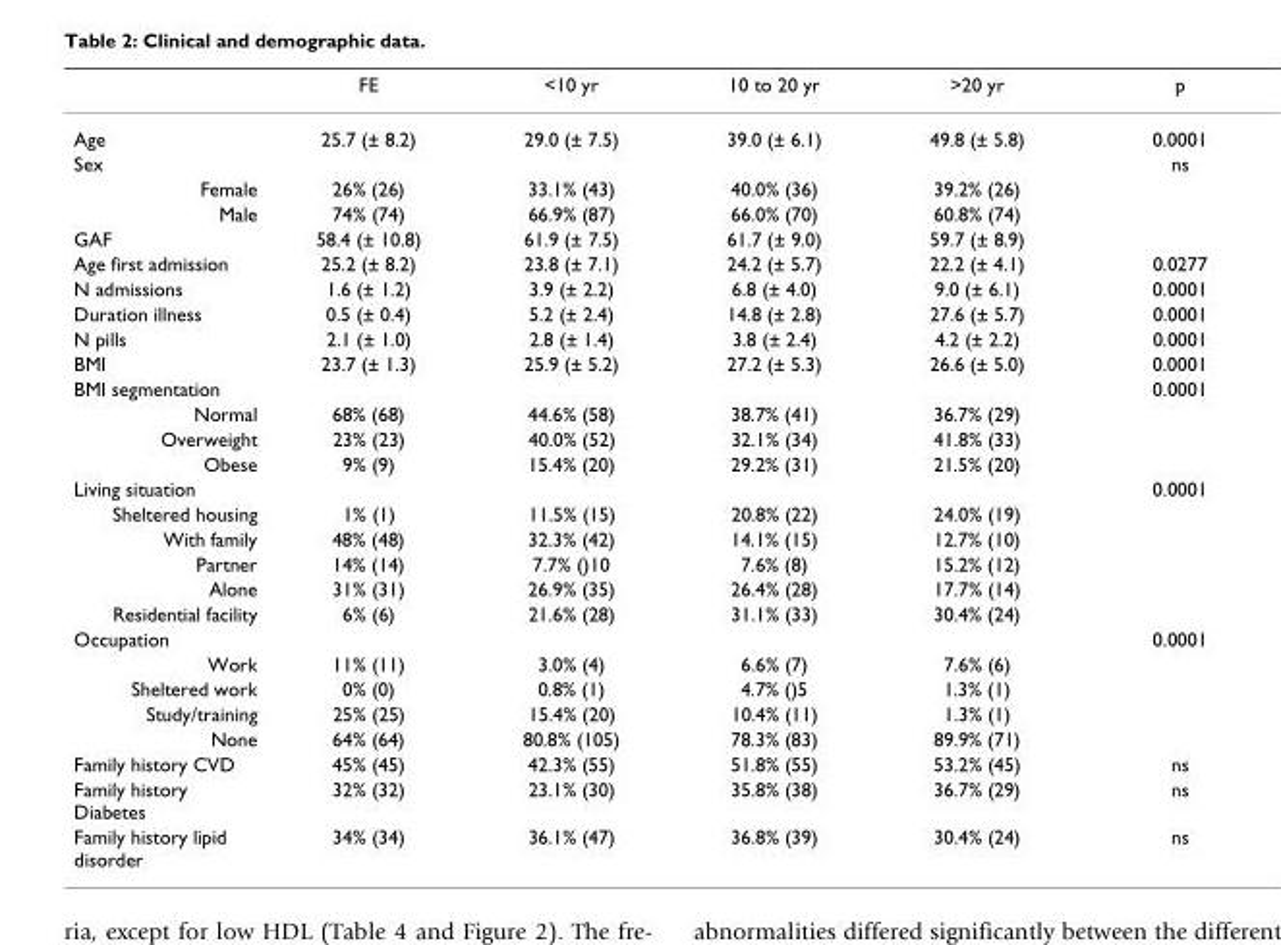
<table><thead><tr><td></td><td>FE</td><td>&lt;10 yr</td><td>10 to 20 yr</td><td>&gt;20 yr</td><td>p</td></tr></thead><tbody><tr><td>Age</td><td>25.7 (± 8.2)</td><td>29.0 (± 7.5)</td><td>39.0 (± 6.1)</td><td>49.8 (± 5.8)</td><td>0.0001</td></tr><tr><td>Sex</td><td></td><td></td><td></td><td></td><td>ns</td></tr><tr><td>Female</td><td>26% (26)</td><td>33.1% (43)</td><td>40.0% (36)</td><td>39.2% (26)</td><td></td></tr><tr><td>Male</td><td>74% (74)</td><td>66.9% (87)</td><td>66.0% (70)</td><td>60.8% (74)</td><td></td></tr><tr><td>GAF</td><td>58.4 (± 10.8)</td><td>61.9 (± 7.5)</td><td>61.7 (± 9.0)</td><td>59.7 (± 8.9)</td><td></td></tr><tr><td>Age first admission</td><td>25.2 (± 8.2)</td><td>23.8 (± 7.1)</td><td>24.2 (± 5.7)</td><td>22.2 (± 4.1)</td><td>0.0277</td></tr><tr><td>N admissions</td><td>1.6 (± 1.2)</td><td>3.9 (± 2.2)</td><td>6.8 (± 4.0)</td><td>9.0 (± 6.1)</td><td>0.0001</td></tr><tr><td>Duration illness</td><td>0.5 (± 0.4)</td><td>5.2 (± 2.4)</td><td>14.8 (± 2.8)</td><td>27.6 (± 5.7)</td><td>0.0001</td></tr><tr><td>N pills</td><td>2.1 (± 1.0)</td><td>2.8 (± 1.4)</td><td>3.8 (± 2.4)</td><td>4.2 (± 2.2)</td><td>0.0001</td></tr><tr><td>BMI</td><td>23.7 (± 1.3)</td><td>25.9 (± 5.2)</td><td>27.2 (± 5.3)</td><td>26.6 (± 5.0)</td><td>0.0001</td></tr><tr><td>BMI segmentation</td><td></td><td></td><td></td><td></td><td>0.0001</td></tr><tr><td>Normal</td><td>68% (68)</td><td>44.6% (58)</td><td>38.7% (41)</td><td>36.7% (29)</td><td></td></tr><tr><td>Overweight</td><td>23% (23)</td><td>40.0% (52)</td><td>32.1% (34)</td><td>41.8% (33)</td><td></td></tr><tr><td>Obese</td><td>9% (9)</td><td>15.4% (20)</td><td>29.2% (31)</td><td>21.5% (20)</td><td></td></tr><tr><td>Living situation</td><td></td><td></td><td></td><td></td><td>0.0001</td></tr><tr><td>Sheltered housing</td><td>1% (1)</td><td>11.5% (15)</td><td>20.8% (22)</td><td>24.0% (19)</td><td></td></tr><tr><td>With family</td><td>48% (48)</td><td>32.3% (42)</td><td>14.1% (15)</td><td>12.7% (10)</td><td></td></tr><tr><td>Partner</td><td>14% (14)</td><td>7.7% ()10</td><td>7.6% (8)</td><td>15.2% (12)</td><td></td></tr><tr><td>Alone</td><td>31% (31)</td><td>26.9% (35)</td><td>26.4% (28)</td><td>17.7% (14)</td><td></td></tr><tr><td>Residential facility</td><td>6% (6)</td><td>21.6% (28)</td><td>31.1% (33)</td><td>30.4% (24)</td><td></td></tr><tr><td>Occupation</td><td></td><td></td><td></td><td></td><td>0.0001</td></tr><tr><td>Work</td><td>11% (11)</td><td>3.0% (4)</td><td>6.6% (7)</td><td>7.6% (6)</td><td></td></tr><tr><td>Sheltered work</td><td>0% (0)</td><td>0.8% (1)</td><td>4.7% ()5</td><td>1.3% (1)</td><td></td></tr><tr><td>Study/training</td><td>25% (25)</td><td>15.4% (20)</td><td>10.4% (11)</td><td>1.3% (1)</td><td></td></tr><tr><td>None</td><td>64% (64)</td><td>80.8% (105)</td><td>78.3% (83)</td><td>89.9% (71)</td><td></td></tr><tr><td>Family history CVD</td><td>45% (45)</td><td>42.3% (55)</td><td>51.8% (55)</td><td>53.2% (45)</td><td>ns</td></tr><tr><td>Family history Diabetes</td><td>32% (32)</td><td>23.1% (30)</td><td>35.8% (38)</td><td>36.7% (29)</td><td>ns</td></tr><tr><td>Family history lipid disorder</td><td>34% (34)</td><td>36.1% (47)</td><td>36.8% (39)</td><td>30.4% (24)</td><td>ns</td></tr></tbody></table>